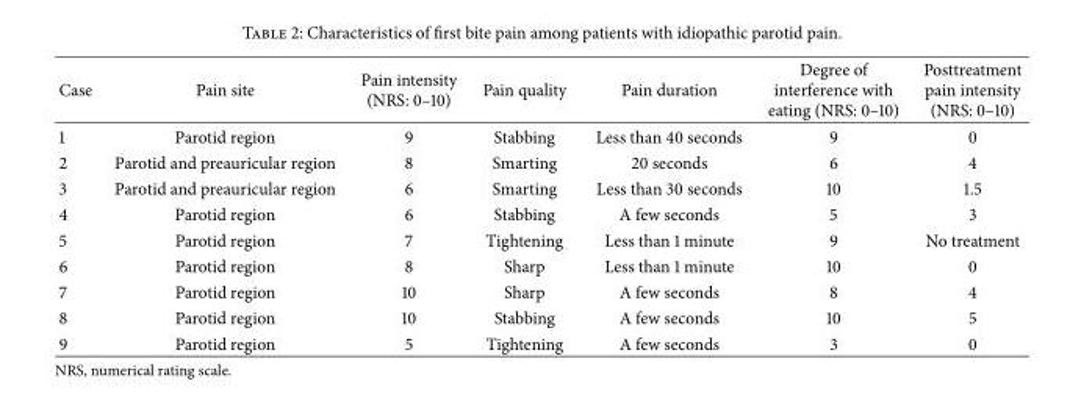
<table><thead><tr><td>Case</td><td>Pain site</td><td>Pain intensity (NRS: 0–10)</td><td>Pain quality</td><td>Pain duration</td><td>Degree of interference with eating (NRS: 0–10)</td><td>Posttreatment pain intensity (NRS: 0–10)</td></tr></thead><tbody><tr><td>1</td><td>Parotid region</td><td>9</td><td>Stabbing</td><td>Less than 40 seconds</td><td>9</td><td>0</td></tr><tr><td>2</td><td>Parotid and preauricular region</td><td>8</td><td>Smarting</td><td>20 seconds</td><td>6</td><td>4</td></tr><tr><td>3</td><td>Parotid and preauricular region</td><td>6</td><td>Smarting</td><td>Less than 30 seconds</td><td>10</td><td>1.5</td></tr><tr><td>4</td><td>Parotid region</td><td>6</td><td>Stabbing</td><td>A few seconds</td><td>5</td><td>3</td></tr><tr><td>5</td><td>Parotid region</td><td>7</td><td>Tightening</td><td>Less than 1 minute</td><td>9</td><td>No treatment</td></tr><tr><td>6</td><td>Parotid region</td><td>8</td><td>Sharp</td><td>Less than 1 minute</td><td>10</td><td>0</td></tr><tr><td>7</td><td>Parotid region</td><td>10</td><td>Sharp</td><td>A few seconds</td><td>8</td><td>4</td></tr><tr><td>8</td><td>Parotid region</td><td>10</td><td>Stabbing</td><td>A few seconds</td><td>10</td><td>5</td></tr><tr><td>9</td><td>Parotid region</td><td>5</td><td>Tightening</td><td>A few seconds</td><td>3</td><td>0</td></tr></tbody></table>